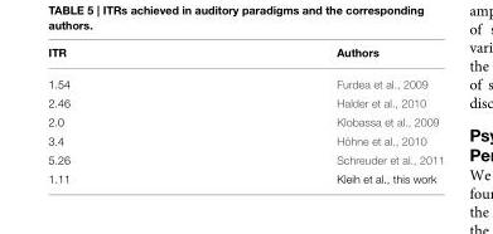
<table><thead><tr><td>ITR</td><td>Authors</td></tr></thead><tbody><tr><td>1.54</td><td>Furdea et al., 2009</td></tr><tr><td>2.46</td><td>Halder et al., 2010</td></tr><tr><td>2.0</td><td>Klobassa et al., 2009</td></tr><tr><td>3.4</td><td>Höhne et al., 2010</td></tr><tr><td>5.26</td><td>Schreuder et al., 2011</td></tr><tr><td>1.11</td><td>Kleih et al., this work</td></tr></tbody></table>